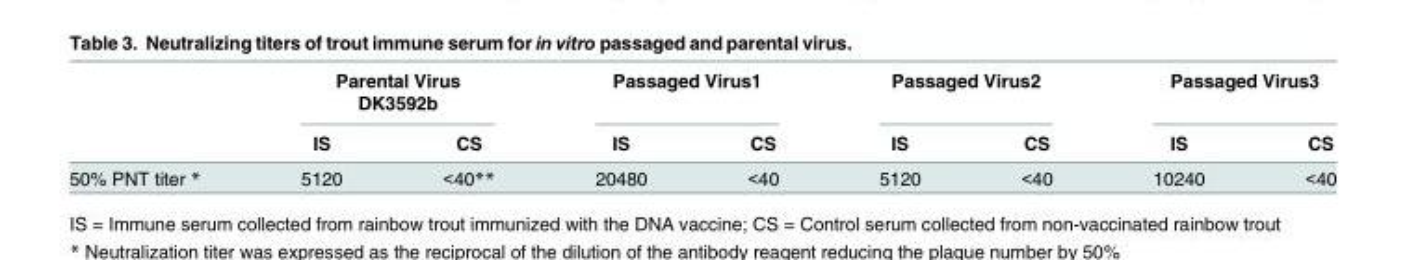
<table><thead><tr><td rowspan="2"></td><td colspan="2">Parental Virus DK3592b</td><td colspan="2">Passaged Virus1</td><td colspan="2">Passaged Virus2</td><td colspan="2">Passaged Virus3</td></tr><tr><td>IS</td><td>CS</td><td>IS</td><td>CS</td><td>IS</td><td>CS</td><td>IS</td><td>CS</td></tr></thead><tbody><tr><td>50% PNT titer *</td><td>5120</td><td>&lt;40**</td><td>20480</td><td>&lt;40</td><td>5120</td><td>&lt;40</td><td>10240</td><td>&lt;40</td></tr></tbody></table>